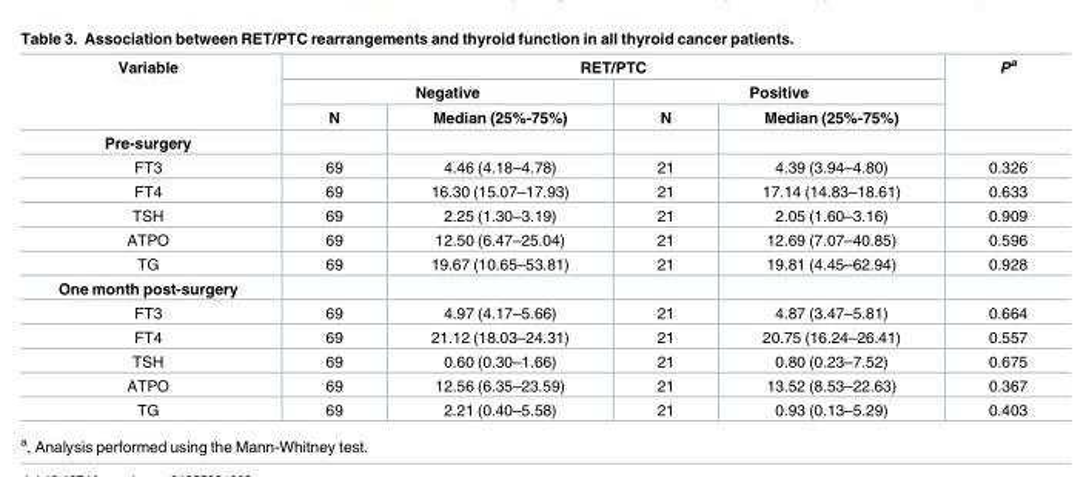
<table><thead><tr><td rowspan="3">Variable</td><td colspan="4">RET/PTC</td><td rowspan="3">P<sup>a</sup></td></tr><tr><td colspan="2">Negative</td><td colspan="2">Positive</td></tr><tr><td>N</td><td>Median (25%-75%)</td><td>N</td><td>Median (25%-75%)</td></tr></thead><tbody><tr><td colspan="6">Pre-surgery</td></tr><tr><td>FT3</td><td>69</td><td>4.46 (4.18–4.78)</td><td>21</td><td>4.39 (3.94–4.80)</td><td>0.326</td></tr><tr><td>FT4</td><td>69</td><td>16.30 (15.07–17.93)</td><td>21</td><td>17.14 (14.83–18.61)</td><td>0.633</td></tr><tr><td>TSH</td><td>69</td><td>2.25 (1.30–3.19)</td><td>21</td><td>2.05 (1.60–3.16)</td><td>0.909</td></tr><tr><td>ATPO</td><td>69</td><td>12.50 (6.47–25.04)</td><td>21</td><td>12.69 (7.07–40.85)</td><td>0.596</td></tr><tr><td>TG</td><td>69</td><td>19.67 (10.65–53.81)</td><td>21</td><td>19.81 (4.45–62.94)</td><td>0.928</td></tr><tr><td colspan="6">One month post-surgery</td></tr><tr><td>FT3</td><td>69</td><td>4.97 (4.17–5.66)</td><td>21</td><td>4.87 (3.47–5.81)</td><td>0.664</td></tr><tr><td>FT4</td><td>69</td><td>21.12 (18.03–24.31)</td><td>21</td><td>20.75 (16.24–26.41)</td><td>0.557</td></tr><tr><td>TSH</td><td>69</td><td>0.60 (0.30–1.66)</td><td>21</td><td>0.80 (0.23–7.52)</td><td>0.675</td></tr><tr><td>ATPO</td><td>69</td><td>12.56 (6.35–23.59)</td><td>21</td><td>13.52 (8.53–22.63)</td><td>0.367</td></tr><tr><td>TG</td><td>69</td><td>2.21 (0.40–5.58)</td><td>21</td><td>0.93 (0.13–5.29)</td><td>0.403</td></tr></tbody></table>